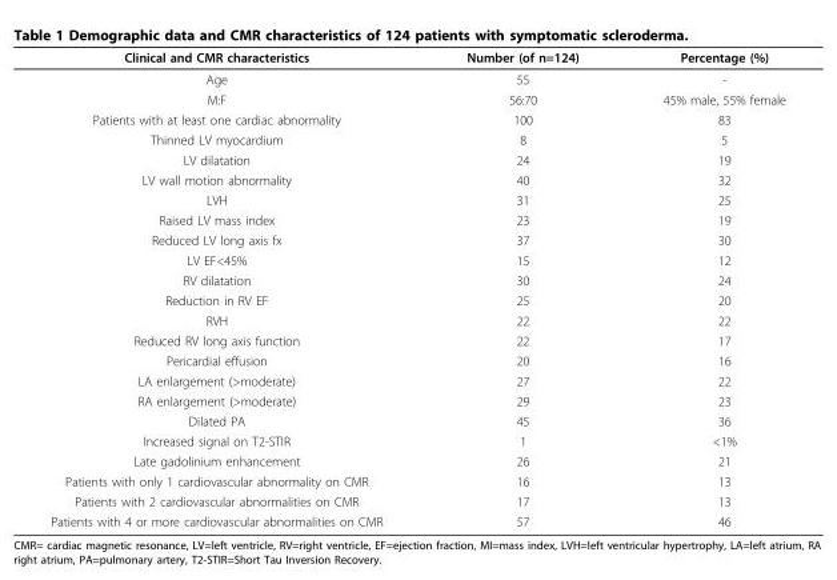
<table><thead><tr><td>Clinical and CMR characteristics</td><td>Number (of n=124)</td><td>Percentage (%)</td></tr></thead><tbody><tr><td>Age</td><td>55</td><td>-</td></tr><tr><td>M:F</td><td>56:70</td><td>45% male, 55% female</td></tr><tr><td>Patients with at least one cardiac abnormality</td><td>100</td><td>83</td></tr><tr><td>Thinned LV myocardium</td><td>8</td><td>5</td></tr><tr><td>LV dilatation</td><td>24</td><td>19</td></tr><tr><td>LV wall motion abnormality</td><td>40</td><td>32</td></tr><tr><td>LVH</td><td>31</td><td>25</td></tr><tr><td>Raised LV mass index</td><td>23</td><td>19</td></tr><tr><td>Reduced LV long axis fx</td><td>37</td><td>30</td></tr><tr><td>LV EF&lt;45%</td><td>15</td><td>12</td></tr><tr><td>RV dilatation</td><td>30</td><td>24</td></tr><tr><td>Reduction in RV EF</td><td>25</td><td>20</td></tr><tr><td>RVH</td><td>22</td><td>22</td></tr><tr><td>Reduced RV long axis function</td><td>22</td><td>17</td></tr><tr><td>Pericardial effusion</td><td>20</td><td>16</td></tr><tr><td>LA enlargement (&gt;moderate)</td><td>27</td><td>22</td></tr><tr><td>RA enlargement (&gt;moderate)</td><td>29</td><td>23</td></tr><tr><td>Dilated PA</td><td>45</td><td>36</td></tr><tr><td>Increased signal on T2-STIR</td><td>1</td><td>&lt;1%</td></tr><tr><td>Late gadolinium enhancement</td><td>26</td><td>21</td></tr><tr><td>Patients with only 1 cardiovascular abnormality on CMR</td><td>16</td><td>13</td></tr><tr><td>Patients with 2 cardiovascular abnormalities on CMR</td><td>17</td><td>13</td></tr><tr><td>Patients with 4 or more cardiovascular abnormalities on CMR</td><td>57</td><td>46</td></tr></tbody></table>